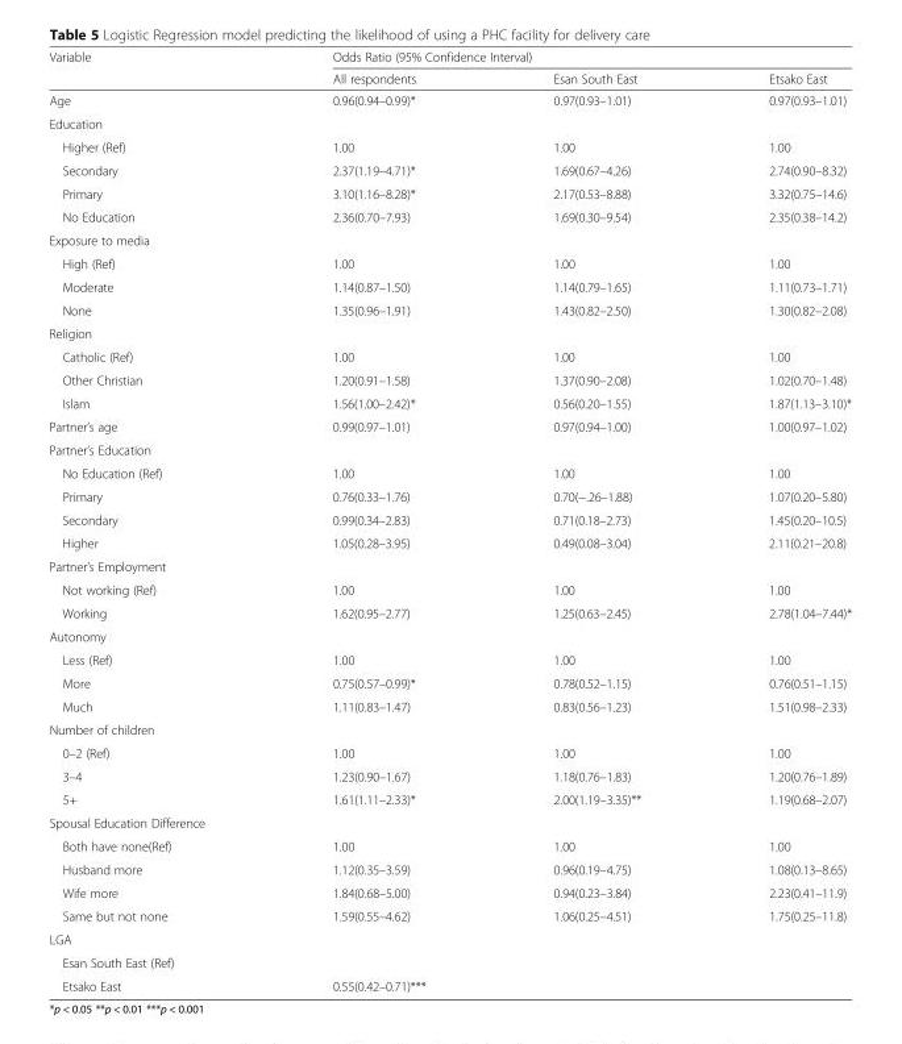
<table><thead><tr><td rowspan="2">Variable</td><td colspan="3">Odds Ratio (95% Confidence Interval)</td></tr><tr><td>All respondents</td><td>Esan South East</td><td>Etsako East</td></tr></thead><tbody><tr><td>Age</td><td>0.96(0.94–0.99)*</td><td>0.97(0.93–1.01)</td><td>0.97(0.93–1.01)</td></tr><tr><td colspan="4">Education</td></tr><tr><td>Higher (Ref)</td><td>1.00</td><td>1.00</td><td>1.00</td></tr><tr><td>Secondary</td><td>2.37(1.19–4.71)*</td><td>1.69(0.67–4.26)</td><td>2.74(0.90–8.32)</td></tr><tr><td>Primary</td><td>3.10(1.16–8.28)*</td><td>2.17(0.53–8.88)</td><td>3.32(0.75–14.6)</td></tr><tr><td>No Education</td><td>2.36(0.70–7.93)</td><td>1.69(0.30–9.54)</td><td>2.35(0.38–14.2)</td></tr><tr><td colspan="4">Exposure to media</td></tr><tr><td>High (Ref)</td><td>1.00</td><td>1.00</td><td>1.00</td></tr><tr><td>Moderate</td><td>1.14(0.87–1.50)</td><td>1.14(0.79–1.65)</td><td>1.11(0.73–1.71)</td></tr><tr><td>None</td><td>1.35(0.96–1.91)</td><td>1.43(0.82–2.50)</td><td>1.30(0.82–2.08)</td></tr><tr><td colspan="4">Religion</td></tr><tr><td>Catholic (Ref)</td><td>1.00</td><td>1.00</td><td>1.00</td></tr><tr><td>Other Christian</td><td>1.20(0.91–1.58)</td><td>1.37(0.90–2.08)</td><td>1.02(0.70–1.48)</td></tr><tr><td>Islam</td><td>1.56(1.00–2.42)*</td><td>0.56(0.20–1.55)</td><td>1.87(1.13–3.10)*</td></tr><tr><td>Partner’s age</td><td>0.99(0.97–1.01)</td><td>0.97(0.94–1.00)</td><td>1.00(0.97–1.02)</td></tr><tr><td colspan="4">Partner’s Education</td></tr><tr><td>No Education (Ref)</td><td>1.00</td><td>1.00</td><td>1.00</td></tr><tr><td>Primary</td><td>0.76(0.33–1.76)</td><td>0.70(−.26–1.88)</td><td>1.07(0.20–5.80)</td></tr><tr><td>Secondary</td><td>0.99(0.34–2.83)</td><td>0.71(0.18–2.73)</td><td>1.45(0.20–10.5)</td></tr><tr><td>Higher</td><td>1.05(0.28–3.95)</td><td>0.49(0.08–3.04)</td><td>2.11(0.21–20.8)</td></tr><tr><td colspan="4">Partner’s Employment</td></tr><tr><td>Not working (Ref)</td><td>1.00</td><td>1.00</td><td>1.00</td></tr><tr><td>Working</td><td>1.62(0.95–2.77)</td><td>1.25(0.63–2.45)</td><td>2.78(1.04–7.44)*</td></tr><tr><td colspan="4">Autonomy</td></tr><tr><td>Less (Ref)</td><td>1.00</td><td>1.00</td><td>1.00</td></tr><tr><td>More</td><td>0.75(0.57–0.99)*</td><td>0.78(0.52–1.15)</td><td>0.76(0.51–1.15)</td></tr><tr><td>Much</td><td>1.11(0.83–1.47)</td><td>0.83(0.56–1.23)</td><td>1.51(0.98–2.33)</td></tr><tr><td colspan="4">Number of children</td></tr><tr><td>0–2 (Ref)</td><td>1.00</td><td>1.00</td><td>1.00</td></tr><tr><td>3–4</td><td>1.23(0.90–1.67)</td><td>1.18(0.76–1.83)</td><td>1.20(0.76–1.89)</td></tr><tr><td>5+</td><td>1.61(1.11–2.33)*</td><td>2.00(1.19–3.35)**</td><td>1.19(0.68–2.07)</td></tr><tr><td colspan="4">Spousal Education Difference</td></tr><tr><td>Both have none(Ref)</td><td>1.00</td><td>1.00</td><td>1.00</td></tr><tr><td>Husband more</td><td>1.12(0.35–3.59)</td><td>0.96(0.19–4.75)</td><td>1.08(0.13–8.65)</td></tr><tr><td>Wife more</td><td>1.84(0.68–5.00)</td><td>0.94(0.23–3.84)</td><td>2.23(0.41–11.9)</td></tr><tr><td>Same but not none</td><td>1.59(0.55–4.62)</td><td>1.06(0.25–4.51)</td><td>1.75(0.25–11.8)</td></tr><tr><td colspan="4">LGA</td></tr><tr><td colspan="4">Esan South East (Ref)</td></tr><tr><td>Etsako East</td><td>0.55(0.42–0.71)***</td><td></td><td></td></tr></tbody></table>